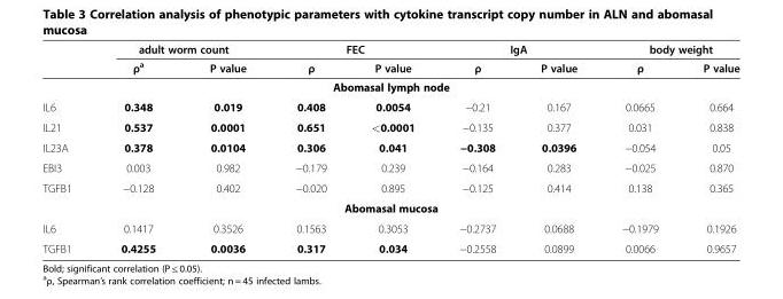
<table><thead><tr><td rowspan="2"></td><td colspan="2">adult worm count</td><td colspan="2">FEC</td><td colspan="2">IgA</td><td colspan="2">body weight</td></tr><tr><td>ρ<sup>a</sup></td><td>P value</td><td>ρ</td><td>P value</td><td>ρ</td><td>P value</td><td>ρ</td><td>P value</td></tr></thead><tbody><tr><td colspan="9">Abomasal lymph node</td></tr><tr><td>IL6</td><td>0.348</td><td>0.019</td><td>0.408</td><td>0.0054</td><td>−0.21</td><td>0.167</td><td>0.0665</td><td>0.664</td></tr><tr><td>IL21</td><td>0.537</td><td>0.0001</td><td>0.651</td><td>&lt;0.0001</td><td>−0.135</td><td>0.377</td><td>0.031</td><td>0.838</td></tr><tr><td>IL23A</td><td>0.378</td><td>0.0104</td><td>0.306</td><td>0.041</td><td>−0.308</td><td>0.0396</td><td>−0.054</td><td>0.05</td></tr><tr><td>EBI3</td><td>0.003</td><td>0.982</td><td>−0.179</td><td>0.239</td><td>−0.164</td><td>0.283</td><td>−0.025</td><td>0.870</td></tr><tr><td>TGFB1</td><td>−0.128</td><td>0.402</td><td>−0.020</td><td>0.895</td><td>−0.125</td><td>0.414</td><td>0.138</td><td>0.365</td></tr><tr><td colspan="9">Abomasal mucosa</td></tr><tr><td>IL6</td><td>0.1417</td><td>0.3526</td><td>0.1563</td><td>0.3053</td><td>−0.2737</td><td>0.0688</td><td>−0.1979</td><td>0.1926</td></tr><tr><td>TGFB1</td><td>0.4255</td><td>0.0036</td><td>0.317</td><td>0.034</td><td>−0.2558</td><td>0.0899</td><td>0.0066</td><td>0.9657</td></tr></tbody></table>